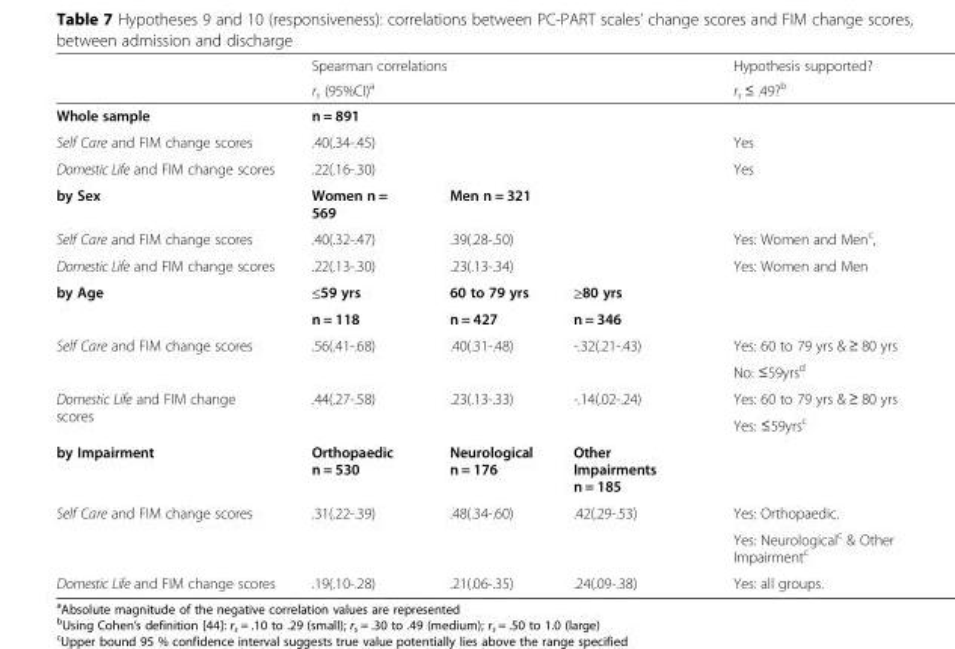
<table><thead><tr><td rowspan="2"></td><td rowspan="2" colspan="3">Spearman correlations r<sub>s</sub> (95%CI)<sup>a</sup></td><td rowspan="2">Hypothesis supported? r<sub>s</sub> ≤ .49?<sup>b</sup></td></tr><tr></tr></thead><tbody><tr><td>Whole sample</td><td>n = 891</td><td colspan="2"></td><td></td></tr><tr><td>Self Care and FIM change scores</td><td>.40(.34-.45)</td><td colspan="2"></td><td>Yes</td></tr><tr><td>Domestic Life and FIM change scores</td><td>.22(.16-.30)</td><td colspan="2"></td><td>Yes</td></tr><tr><td>by Sex</td><td>Women n = 569</td><td colspan="2">Men n = 321</td><td></td></tr><tr><td>Self Care and FIM change scores</td><td>.40(.32-.47)</td><td colspan="2">.39(.28-.50)</td><td>Yes: Women and Men<sup>c</sup>,</td></tr><tr><td>Domestic Life and FIM change scores</td><td>.22(.13-.30)</td><td colspan="2">.23(.13-.34)</td><td>Yes: Women and Men</td></tr><tr><td rowspan="2">by Age</td><td>≤59 yrs</td><td>60 to 79 yrs</td><td>≥80 yrs</td><td></td></tr><tr><td>n = 118</td><td>n = 427</td><td>n = 346</td><td></td></tr><tr><td rowspan="2">Self Care and FIM change scores</td><td rowspan="2">.56(.41-.68)</td><td rowspan="2">.40(.31-.48)</td><td rowspan="2">-.32(.21-.43)</td><td>Yes: 60 to 79 yrs &amp; ≥ 80 yrs</td></tr><tr><td>No: ≤59yrs<sup>d</sup></td></tr><tr><td rowspan="2">Domestic Life and FIM change scores</td><td rowspan="2">.44(.27-.58)</td><td rowspan="2">.23(.13-.33)</td><td rowspan="2">-.14(.02-.24)</td><td>Yes: 60 to 79 yrs &amp; ≥ 80 yrs</td></tr><tr><td>Yes: ≤59yrs<sup>c</sup></td></tr><tr><td>by Impairment</td><td>Orthopaedic n = 530</td><td>Neurological n = 176</td><td>Other Impairments n = 185</td><td></td></tr><tr><td rowspan="2">Self Care and FIM change scores</td><td rowspan="2">.31(.22-.39)</td><td rowspan="2">.48(.34-.60)</td><td rowspan="2">.42(.29-.53)</td><td>Yes: Orthopaedic.</td></tr><tr><td>Yes: Neurological<sup>c</sup> &amp; Other Impairment<sup>c</sup></td></tr><tr><td>Domestic Life and FIM change scores</td><td>.19(.10-.28)</td><td>.21(.06-.35)</td><td>.24(.09-.38)</td><td>Yes: all groups.</td></tr></tbody></table>